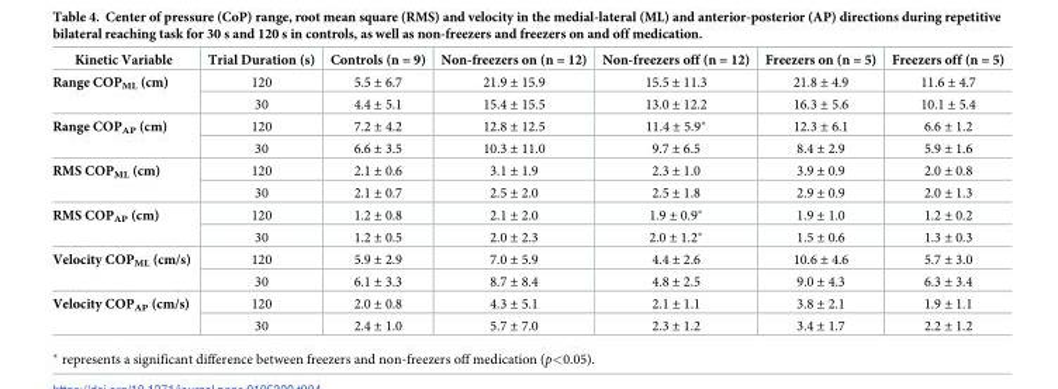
<table><thead><tr><td>Kinetic Variable</td><td>Trial Duration (s)</td><td>Controls (n = 9)</td><td>Non-freezers on (n = 12)</td><td>Non-freezers off (n = 12)</td><td>Freezers on (n = 5)</td><td>Freezers off (n = 5)</td></tr></thead><tbody><tr><td rowspan="2">Range COP<sub>ML</sub> (cm)</td><td>120</td><td>5.5 ± 6.7</td><td>21.9 ± 15.9</td><td>15.5 ± 11.3</td><td>21.8 ± 4.9</td><td>11.6 ± 4.7</td></tr><tr><td>30</td><td>4.4 ± 5.1</td><td>15.4 ± 15.5</td><td>13.0 ± 12.2</td><td>16.3 ± 5.6</td><td>10.1 ± 5.4</td></tr><tr><td rowspan="2">Range COP<sub>AP</sub> (cm)</td><td>120</td><td>7.2 ± 4.2</td><td>12.8 ± 12.5</td><td>11.4 ± 5.9*</td><td>12.3 ± 6.1</td><td>6.6 ± 1.2</td></tr><tr><td>30</td><td>6.6 ± 3.5</td><td>10.3 ± 11.0</td><td>9.7 ± 6.5</td><td>8.4 ± 2.9</td><td>5.9 ± 1.6</td></tr><tr><td rowspan="2">RMS COP<sub>ML</sub> (cm)</td><td>120</td><td>2.1 ± 0.6</td><td>3.1 ± 1.9</td><td>2.3 ± 1.0</td><td>3.9 ± 0.9</td><td>2.0 ± 0.8</td></tr><tr><td>30</td><td>2.1 ± 0.7</td><td>2.5 ± 2.0</td><td>2.5 ± 1.8</td><td>2.9 ± 0.9</td><td>2.0 ± 1.3</td></tr><tr><td rowspan="2">RMS COP<sub>AP</sub> (cm)</td><td>120</td><td>1.2 ± 0.8</td><td>2.1 ± 2.0</td><td>1.9 ± 0.9*</td><td>1.9 ± 1.0</td><td>1.2 ± 0.2</td></tr><tr><td>30</td><td>1.2 ± 0.5</td><td>2.0 ± 2.3</td><td>2.0 ± 1.2*</td><td>1.5 ± 0.6</td><td>1.3 ± 0.3</td></tr><tr><td rowspan="2">Velocity COP<sub>ML</sub> (cm/s)</td><td>120</td><td>5.9 ± 2.9</td><td>7.0 ± 5.9</td><td>4.4 ± 2.6</td><td>10.6 ± 4.6</td><td>5.7 ± 3.0</td></tr><tr><td>30</td><td>6.1 ± 3.3</td><td>8.7 ± 8.4</td><td>4.8 ± 2.5</td><td>9.0 ± 4.3</td><td>6.3 ± 3.4</td></tr><tr><td rowspan="2">Velocity COP<sub>AP</sub> (cm/s)</td><td>120</td><td>2.0 ± 0.8</td><td>4.3 ± 5.1</td><td>2.1 ± 1.1</td><td>3.8 ± 2.1</td><td>1.9 ± 1.1</td></tr><tr><td>30</td><td>2.4 ± 1.0</td><td>5.7 ± 7.0</td><td>2.3 ± 1.2</td><td>3.4 ± 1.7</td><td>2.2 ± 1.2</td></tr></tbody></table>